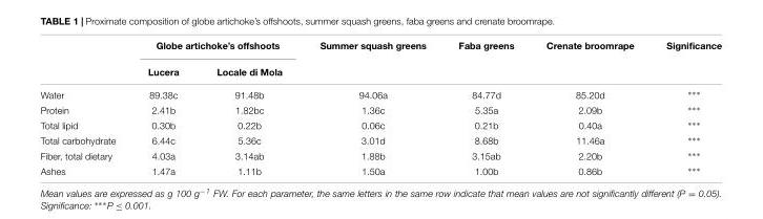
<table><thead><tr><td rowspan="2"></td><td colspan="2">Globe artichoke’s offshoots</td><td rowspan="2">Summer squash greens</td><td rowspan="2">Faba greens</td><td rowspan="2">Crenate broomrape</td><td rowspan="2">Significance</td></tr><tr><td>Lucera</td><td>Locale di Mola</td></tr></thead><tbody><tr><td>Water</td><td>89.38c</td><td>91.48b</td><td>94.06a</td><td>84.77d</td><td>85.20d</td><td>∗∗∗</td></tr><tr><td>Protein</td><td>2.41b</td><td>1.82bc</td><td>1.36c</td><td>5.35a</td><td>2.09b</td><td>∗∗∗</td></tr><tr><td>Total lipid</td><td>0.30b</td><td>0.22b</td><td>0.06c</td><td>0.21b</td><td>0.40a</td><td>∗∗∗</td></tr><tr><td>Total carbohydrate</td><td>6.44c</td><td>5.36c</td><td>3.01d</td><td>8.68b</td><td>11.46a</td><td>∗∗∗</td></tr><tr><td>Fiber, total dietary</td><td>4.03a</td><td>3.14ab</td><td>1.88b</td><td>3.15ab</td><td>2.20b</td><td>∗∗∗</td></tr><tr><td>Ashes</td><td>1.47a</td><td>1.11b</td><td>1.50a</td><td>1.00b</td><td>0.86b</td><td>∗∗∗</td></tr></tbody></table>